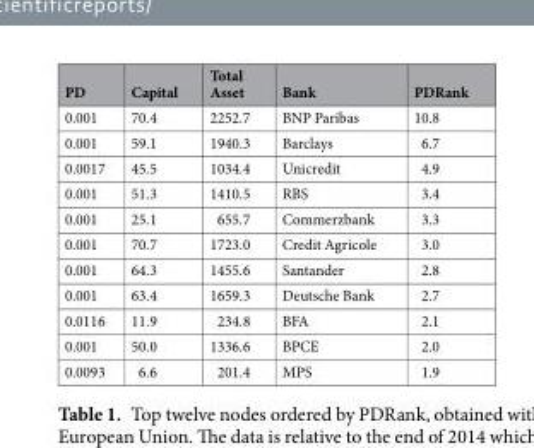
<table><thead><tr><td>PD</td><td>Capital</td><td>Total Asset</td><td>Bank</td><td>PDRank</td></tr></thead><tbody><tr><td>0.001</td><td>70.4</td><td>2252.7</td><td>BNP Paribas</td><td>10.8</td></tr><tr><td>0.001</td><td>59.1</td><td>1940.3</td><td>Barclays</td><td>6.7</td></tr><tr><td>0.0017</td><td>45.5</td><td>1034.4</td><td>Unicredit</td><td>4.9</td></tr><tr><td>0.001</td><td>51.3</td><td>1410.5</td><td>RBS</td><td>3.4</td></tr><tr><td>0.001</td><td>25.1</td><td>655.7</td><td>Commerzbank</td><td>3.3</td></tr><tr><td>0.001</td><td>70.7</td><td>1723.0</td><td>Credit Agricole</td><td>3.0</td></tr><tr><td>0.001</td><td>64.3</td><td>1455.6</td><td>Santander</td><td>2.8</td></tr><tr><td>0.001</td><td>63.4</td><td>1659.3</td><td>Deutsche Bank</td><td>2.7</td></tr><tr><td>0.0116</td><td>11.9</td><td>234.8</td><td>BFA</td><td>2.1</td></tr><tr><td>0.001</td><td>50.0</td><td>1336.6</td><td>BPCE</td><td>2.0</td></tr><tr><td>0.0093</td><td>6.6</td><td>201.4</td><td>MPS</td><td>1.9</td></tr></tbody></table>